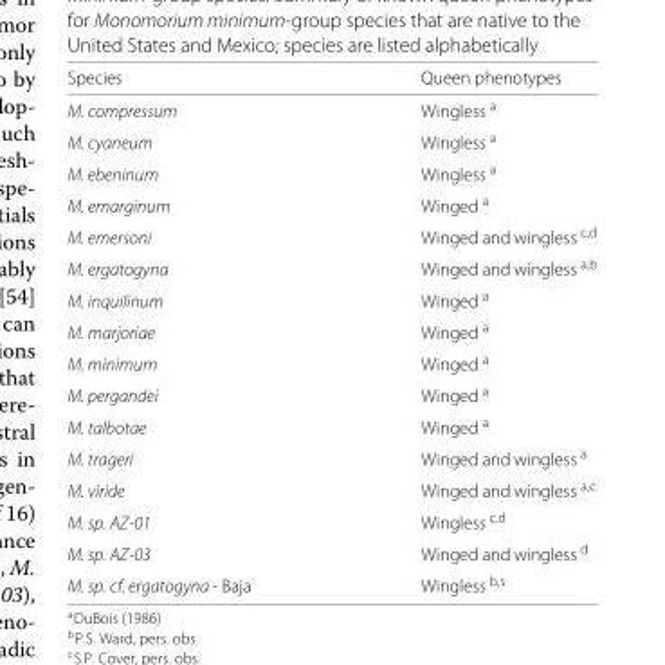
<table><thead><tr><td>Species</td><td>Queen phenotypes</td></tr></thead><tbody><tr><td>M. compressum</td><td>Wingless <sup>a</sup></td></tr><tr><td>M. cyaneum</td><td>Wingless <sup>a</sup></td></tr><tr><td>M. ebeninum</td><td>Wingless <sup>a</sup></td></tr><tr><td>M. emarginum</td><td>Winged <sup>a</sup></td></tr><tr><td>M. emersoni</td><td>Winged and wingless <sup>c,d</sup></td></tr><tr><td>M. ergatogyna</td><td>Winged and wingless <sup>a,b</sup></td></tr><tr><td>M. inquilinum</td><td>Winged <sup>a</sup></td></tr><tr><td>M. marjoriae</td><td>Winged <sup>a</sup></td></tr><tr><td>M. minimum</td><td>Winged <sup>a</sup></td></tr><tr><td>M. pergandei</td><td>Winged <sup>a</sup></td></tr><tr><td>M. talbotae</td><td>Winged <sup>a</sup></td></tr><tr><td>M. trageri</td><td>Winged and wingless <sup>a</sup></td></tr><tr><td>M. viride</td><td>Winged and wingless <sup>a,c</sup></td></tr><tr><td>M. sp. AZ-01</td><td>Wingless <sup>c,d</sup></td></tr><tr><td>M. sp. AZ-03</td><td>Winged and wingless <sup>d</sup></td></tr><tr><td>M. sp. cf. ergatogyna - Baja</td><td>Wingless <sup>b,s</sup></td></tr></tbody></table>